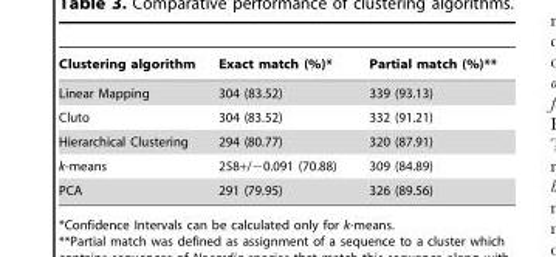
<table><thead><tr><td>Clustering algorithm</td><td>Exact match (%)*</td><td>Partial match (%)**</td></tr></thead><tbody><tr><td>Linear Mapping</td><td>304 (83.52)</td><td>339 (93.13)</td></tr><tr><td>Cluto</td><td>304 (83.52)</td><td>332 (91.21)</td></tr><tr><td>Hierarchical Clustering</td><td>294 (80.77)</td><td>320 (87.91)</td></tr><tr><td>k-means</td><td>258+/−0.091 (70.88)</td><td>309 (84.89)</td></tr><tr><td>PCA</td><td>291 (79.95)</td><td>326 (89.56)</td></tr></tbody></table>